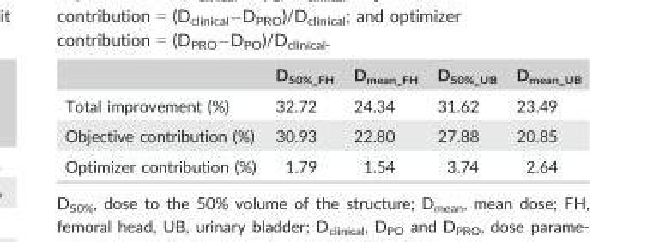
<table><thead><tr><td></td><td>D<sub>50%_FH</sub></td><td>D<sub>mean_FH</sub></td><td>D<sub>50%_UB</sub></td><td>D<sub>mean_UB</sub></td></tr></thead><tbody><tr><td>Total improvement (%)</td><td>32.72</td><td>24.34</td><td>31.62</td><td>23.49</td></tr><tr><td>Objective contribution (%)</td><td>30.93</td><td>22.80</td><td>27.88</td><td>20.85</td></tr><tr><td>Optimizer contribution (%)</td><td>1.79</td><td>1.54</td><td>3.74</td><td>2.64</td></tr></tbody></table>